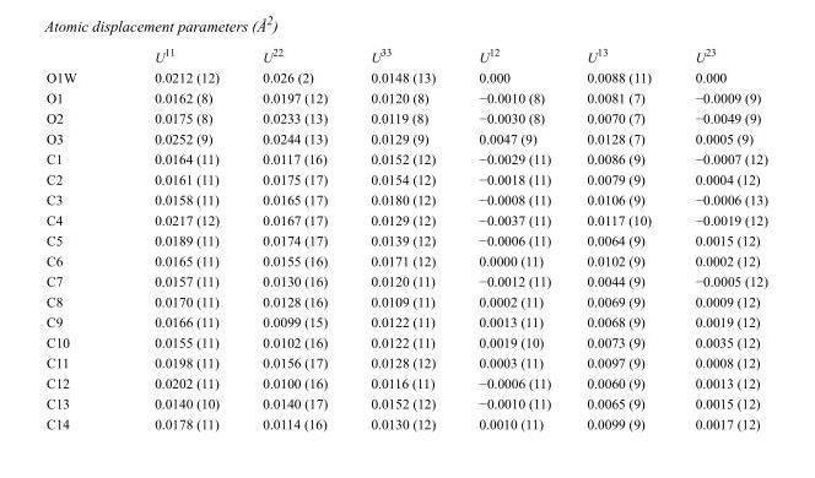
<table><thead><tr><td></td><td>U<sup>11</sup></td><td>U<sup>22</sup></td><td>U<sup>33</sup></td><td>U<sup>12</sup></td><td>U<sup>13</sup></td><td>U<sup>23</sup></td></tr></thead><tbody><tr><td>O1W</td><td>0.0212 (12)</td><td>0.026 (2)</td><td>0.0148 (13)</td><td>0.000</td><td>0.0088 (11)</td><td>0.000</td></tr><tr><td>O1</td><td>0.0162 (8)</td><td>0.0197 (12)</td><td>0.0120 (8)</td><td>−0.0010 (8)</td><td>0.0081 (7)</td><td>−0.0009 (9)</td></tr><tr><td>O2</td><td>0.0175 (8)</td><td>0.0233 (13)</td><td>0.0119 (8)</td><td>−0.0030 (8)</td><td>0.0070 (7)</td><td>−0.0049 (9)</td></tr><tr><td>O3</td><td>0.0252 (9)</td><td>0.0244 (13)</td><td>0.0129 (9)</td><td>0.0047 (9)</td><td>0.0128 (7)</td><td>0.0005 (9)</td></tr><tr><td>C1</td><td>0.0164 (11)</td><td>0.0117 (16)</td><td>0.0152 (12)</td><td>−0.0029 (11)</td><td>0.0086 (9)</td><td>−0.0007 (12)</td></tr><tr><td>C2</td><td>0.0161 (11)</td><td>0.0175 (17)</td><td>0.0154 (12)</td><td>−0.0018 (11)</td><td>0.0079 (9)</td><td>0.0004 (12)</td></tr><tr><td>C3</td><td>0.0158 (11)</td><td>0.0165 (17)</td><td>0.0180 (12)</td><td>−0.0008 (11)</td><td>0.0106 (9)</td><td>−0.0006 (13)</td></tr><tr><td>C4</td><td>0.0217 (12)</td><td>0.0167 (17)</td><td>0.0129 (12)</td><td>−0.0037 (11)</td><td>0.0117 (10)</td><td>−0.0019 (12)</td></tr><tr><td>C5</td><td>0.0189 (11)</td><td>0.0174 (17)</td><td>0.0139 (12)</td><td>−0.0006 (11)</td><td>0.0064 (9)</td><td>0.0015 (12)</td></tr><tr><td>C6</td><td>0.0165 (11)</td><td>0.0155 (16)</td><td>0.0171 (12)</td><td>0.0000 (11)</td><td>0.0102 (9)</td><td>0.0002 (12)</td></tr><tr><td>C7</td><td>0.0157 (11)</td><td>0.0130 (16)</td><td>0.0120 (11)</td><td>−0.0012 (11)</td><td>0.0044 (9)</td><td>−0.0005 (12)</td></tr><tr><td>C8</td><td>0.0170 (11)</td><td>0.0128 (16)</td><td>0.0109 (11)</td><td>0.0002 (11)</td><td>0.0069 (9)</td><td>0.0009 (12)</td></tr><tr><td>C9</td><td>0.0166 (11)</td><td>0.0099 (15)</td><td>0.0122 (11)</td><td>0.0013 (11)</td><td>0.0068 (9)</td><td>0.0019 (12)</td></tr><tr><td>C10</td><td>0.0155 (11)</td><td>0.0102 (16)</td><td>0.0122 (11)</td><td>0.0019 (10)</td><td>0.0073 (9)</td><td>0.0035 (12)</td></tr><tr><td>C11</td><td>0.0198 (11)</td><td>0.0156 (17)</td><td>0.0128 (12)</td><td>0.0003 (11)</td><td>0.0097 (9)</td><td>0.0008 (12)</td></tr><tr><td>C12</td><td>0.0202 (11)</td><td>0.0100 (16)</td><td>0.0116 (11)</td><td>−0.0006 (11)</td><td>0.0060 (9)</td><td>0.0013 (12)</td></tr><tr><td>C13</td><td>0.0140 (10)</td><td>0.0140 (17)</td><td>0.0152 (12)</td><td>−0.0010 (11)</td><td>0.0065 (9)</td><td>0.0015 (12)</td></tr><tr><td>C14</td><td>0.0178 (11)</td><td>0.0114 (16)</td><td>0.0130 (12)</td><td>0.0010 (11)</td><td>0.0099 (9)</td><td>0.0017 (12)</td></tr></tbody></table>